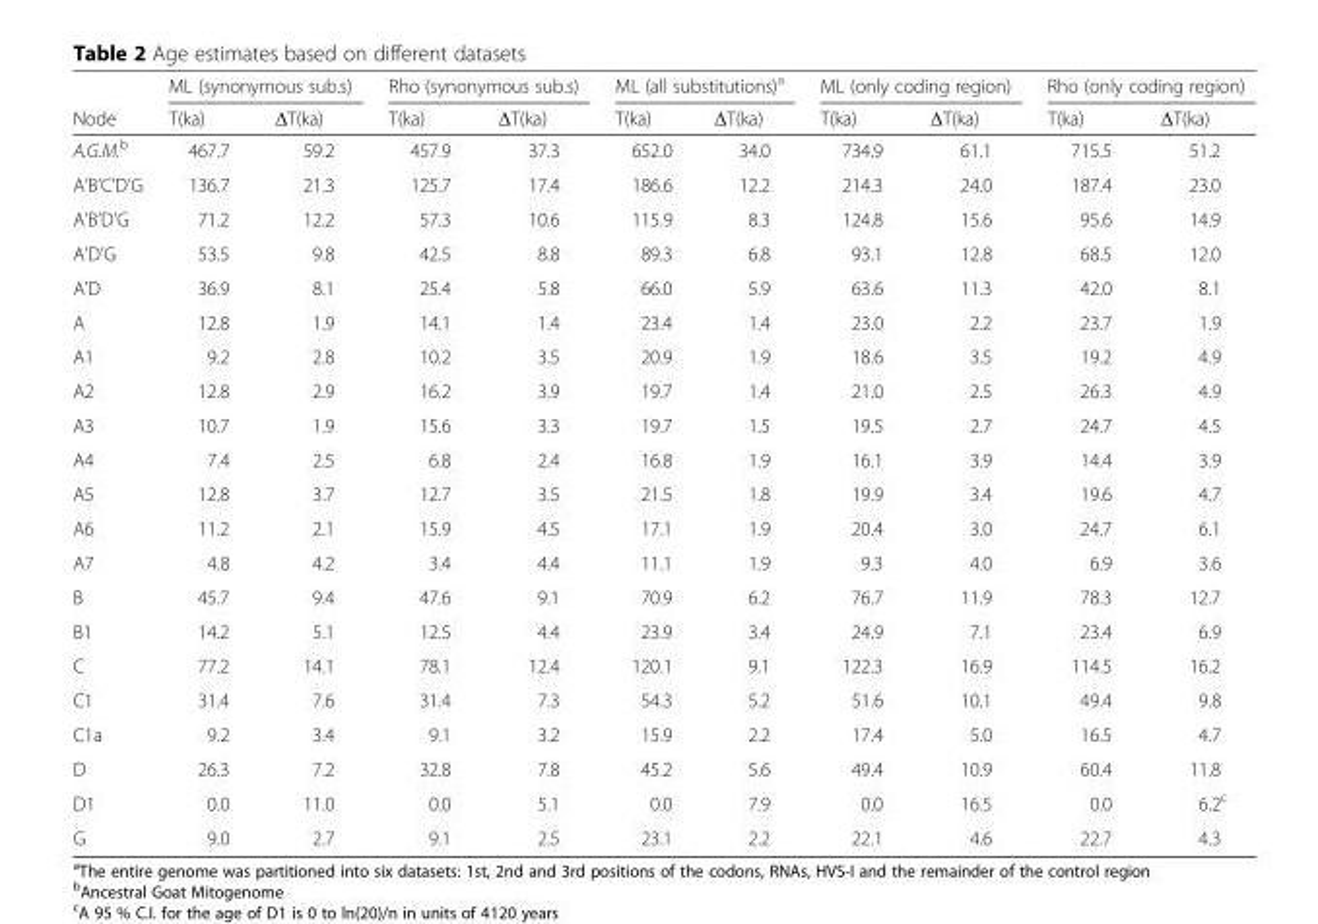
<table><thead><tr><td rowspan="2">Node</td><td colspan="2">ML (synonymous sub.s)</td><td colspan="2">Rho (synonymous sub.s)</td><td colspan="2">ML (all substitutions)<sup>a</sup></td><td colspan="2">ML (only coding region)</td><td colspan="2">Rho (only coding region)</td></tr><tr><td>T(ka)</td><td>ΔT(ka)</td><td>T(ka)</td><td>ΔT(ka)</td><td>T(ka)</td><td>ΔT(ka)</td><td>T(ka)</td><td>ΔT(ka)</td><td>T(ka)</td><td>ΔT(ka)</td></tr></thead><tbody><tr><td>A.G.M.<sup>b</sup></td><td>467.7</td><td>59.2</td><td>457.9</td><td>37.3</td><td>652.0</td><td>34.0</td><td>734.9</td><td>61.1</td><td>715.5</td><td>51.2</td></tr><tr><td>A’B’C’D’G</td><td>136.7</td><td>21.3</td><td>125.7</td><td>17.4</td><td>186.6</td><td>12.2</td><td>214.3</td><td>24.0</td><td>187.4</td><td>23.0</td></tr><tr><td>A’B’D’G</td><td>71.2</td><td>12.2</td><td>57.3</td><td>10.6</td><td>115.9</td><td>8.3</td><td>124.8</td><td>15.6</td><td>95.6</td><td>14.9</td></tr><tr><td>A’D’G</td><td>53.5</td><td>9.8</td><td>42.5</td><td>8.8</td><td>89.3</td><td>6.8</td><td>93.1</td><td>12.8</td><td>68.5</td><td>12.0</td></tr><tr><td>A’D</td><td>36.9</td><td>8.1</td><td>25.4</td><td>5.8</td><td>66.0</td><td>5.9</td><td>63.6</td><td>11.3</td><td>42.0</td><td>8.1</td></tr><tr><td>A</td><td>12.8</td><td>1.9</td><td>14.1</td><td>1.4</td><td>23.4</td><td>1.4</td><td>23.0</td><td>2.2</td><td>23.7</td><td>1.9</td></tr><tr><td>A1</td><td>9.2</td><td>2.8</td><td>10.2</td><td>3.5</td><td>20.9</td><td>1.9</td><td>18.6</td><td>3.5</td><td>19.2</td><td>4.9</td></tr><tr><td>A2</td><td>12.8</td><td>2.9</td><td>16.2</td><td>3.9</td><td>19.7</td><td>1.4</td><td>21.0</td><td>2.5</td><td>26.3</td><td>4.9</td></tr><tr><td>A3</td><td>10.7</td><td>1.9</td><td>15.6</td><td>3.3</td><td>19.7</td><td>1.5</td><td>19.5</td><td>2.7</td><td>24.7</td><td>4.5</td></tr><tr><td>A4</td><td>7.4</td><td>2.5</td><td>6.8</td><td>2.4</td><td>16.8</td><td>1.9</td><td>16.1</td><td>3.9</td><td>14.4</td><td>3.9</td></tr><tr><td>A5</td><td>12.8</td><td>3.7</td><td>12.7</td><td>3.5</td><td>21.5</td><td>1.8</td><td>19.9</td><td>3.4</td><td>19.6</td><td>4.7</td></tr><tr><td>A6</td><td>11.2</td><td>2.1</td><td>15.9</td><td>4.5</td><td>17.1</td><td>1.9</td><td>20.4</td><td>3.0</td><td>24.7</td><td>6.1</td></tr><tr><td>A7</td><td>4.8</td><td>4.2</td><td>3.4</td><td>4.4</td><td>11.1</td><td>1.9</td><td>9.3</td><td>4.0</td><td>6.9</td><td>3.6</td></tr><tr><td>B</td><td>45.7</td><td>9.4</td><td>47.6</td><td>9.1</td><td>70.9</td><td>6.2</td><td>76.7</td><td>11.9</td><td>78.3</td><td>12.7</td></tr><tr><td>B1</td><td>14.2</td><td>5.1</td><td>12.5</td><td>4.4</td><td>23.9</td><td>3.4</td><td>24.9</td><td>7.1</td><td>23.4</td><td>6.9</td></tr><tr><td>C</td><td>77.2</td><td>14.1</td><td>78.1</td><td>12.4</td><td>120.1</td><td>9.1</td><td>122.3</td><td>16.9</td><td>114.5</td><td>16.2</td></tr><tr><td>C1</td><td>31.4</td><td>7.6</td><td>31.4</td><td>7.3</td><td>54.3</td><td>5.2</td><td>51.6</td><td>10.1</td><td>49.4</td><td>9.8</td></tr><tr><td>C1a</td><td>9.2</td><td>3.4</td><td>9.1</td><td>3.2</td><td>15.9</td><td>2.2</td><td>17.4</td><td>5.0</td><td>16.5</td><td>4.7</td></tr><tr><td>D</td><td>26.3</td><td>7.2</td><td>32.8</td><td>7.8</td><td>45.2</td><td>5.6</td><td>49.4</td><td>10.9</td><td>60.4</td><td>11.8</td></tr><tr><td>D1</td><td>0.0</td><td>11.0</td><td>0.0</td><td>5.1</td><td>0.0</td><td>7.9</td><td>0.0</td><td>16.5</td><td>0.0</td><td>6.2<sup>c</sup></td></tr><tr><td>G</td><td>9.0</td><td>2.7</td><td>9.1</td><td>2.5</td><td>23.1</td><td>2.2</td><td>22.1</td><td>4.6</td><td>22.7</td><td>4.3</td></tr></tbody></table>